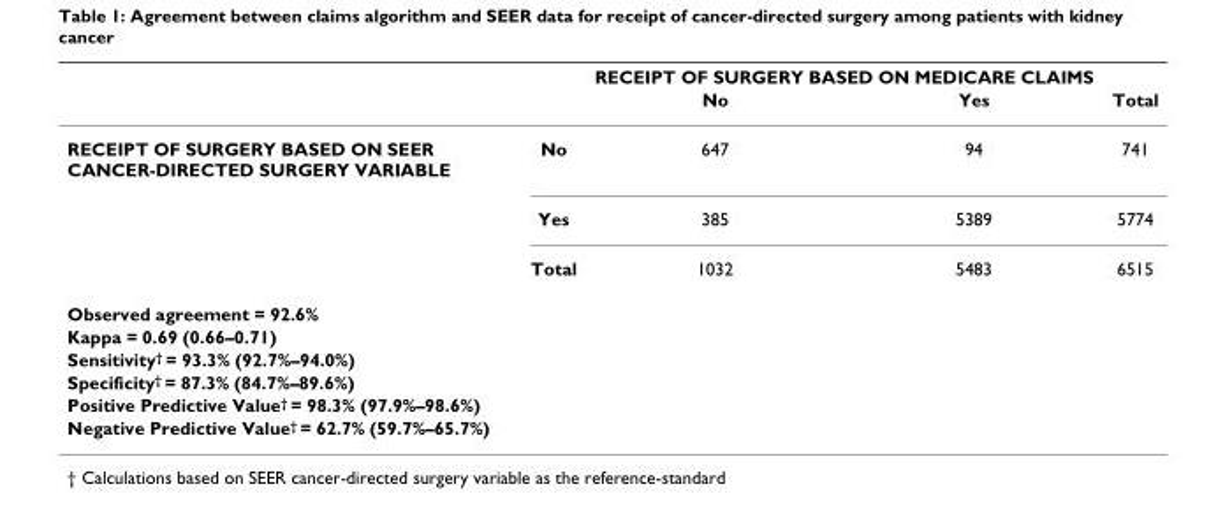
<table><thead><tr><td rowspan="2"></td><td rowspan="2"></td><td colspan="2">RECEIPT OF SURGERY BASED ON MEDICARE CLAIMS</td><td rowspan="2">Total</td></tr><tr><td>No</td><td>Yes</td></tr></thead><tbody><tr><td rowspan="3">RECEIPT OF SURGERY BASED ON SEER CANCER-DIRECTED SURGERY VARIABLE</td><td>No</td><td>647</td><td>94</td><td>741</td></tr><tr><td>Yes</td><td>385</td><td>5389</td><td>5774</td></tr><tr><td>Total</td><td>1032</td><td>5483</td><td>6515</td></tr><tr><td colspan="5">Observed agreement = 92.6%</td></tr><tr><td colspan="5">Kappa = 0.69 (0.66–0.71)</td></tr><tr><td colspan="5">Sensitivity<sup>†</sup> = 93.3% (92.7%–94.0%)</td></tr><tr><td colspan="5">Specificity<sup>†</sup> = 87.3% (84.7%–89.6%)</td></tr><tr><td colspan="5">Positive Predictive Value<sup>†</sup> = 98.3% (97.9%–98.6%)</td></tr><tr><td colspan="5">Negative Predictive Value<sup>†</sup> = 62.7% (59.7%–65.7%)</td></tr></tbody></table>